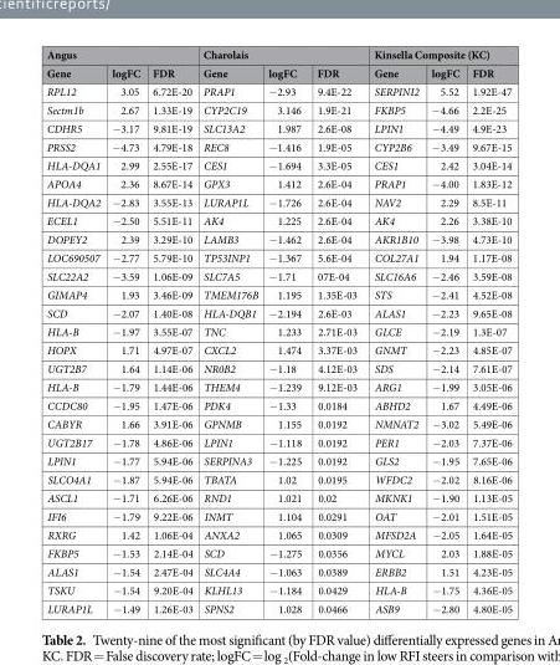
<table><thead><tr><td colspan="3">Angus</td><td colspan="3">Charolais</td><td colspan="3">Kinsella Composite (KC)</td></tr><tr><td>Gene</td><td>logFC</td><td>FDR</td><td>Gene</td><td>logFC</td><td>FDR</td><td>Gene</td><td>logFC</td><td>FDR</td></tr></thead><tbody><tr><td>RPL12</td><td>3.05</td><td>6.72E-20</td><td>PRAP1</td><td>−2.93</td><td>9.4E-22</td><td>SERPINI2</td><td>5.52</td><td>1.92E-47</td></tr><tr><td>Sectm1b</td><td>2.67</td><td>1.33E-19</td><td>CYP2C19</td><td>3.146</td><td>1.9E-21</td><td>FKBP5</td><td>−4.66</td><td>2.2E-25</td></tr><tr><td>CDHR5</td><td>−3.17</td><td>9.81E-19</td><td>SLC13A2</td><td>1.987</td><td>2.6E-08</td><td>LPIN1</td><td>−4.49</td><td>4.9E-23</td></tr><tr><td>PRSS2</td><td>−4.73</td><td>4.79E-18</td><td>REC8</td><td>−1.416</td><td>1.9E-05</td><td>CYP2B6</td><td>−3.49</td><td>9.67E-15</td></tr><tr><td>HLA-DQA1</td><td>2.99</td><td>2.55E-17</td><td>CES1</td><td>−1.694</td><td>3.3E-05</td><td>CES1</td><td>2.42</td><td>3.04E-14</td></tr><tr><td>APOA4</td><td>2.36</td><td>8.67E-14</td><td>GPX3</td><td>1.412</td><td>2.6E-04</td><td>PRAP1</td><td>−4.00</td><td>1.83E-12</td></tr><tr><td>HLA-DQA2</td><td>−2.83</td><td>3.55E-13</td><td>LURAP1L</td><td>−1.726</td><td>2.6E-04</td><td>NAV2</td><td>2.29</td><td>8.5E-11</td></tr><tr><td>ECEL1</td><td>−2.50</td><td>5.51E-11</td><td>AK4</td><td>1.225</td><td>2.6E-04</td><td>AK4</td><td>2.26</td><td>3.38E-10</td></tr><tr><td>DOPEY2</td><td>2.39</td><td>3.29E-10</td><td>LAMB3</td><td>−1.462</td><td>2.6E-04</td><td>AKR1B10</td><td>−3.98</td><td>4.73E-10</td></tr><tr><td>LOC690507</td><td>−2.77</td><td>5.79E-10</td><td>TP53INP1</td><td>−1.367</td><td>5.6E-04</td><td>COL27A1</td><td>1.94</td><td>1.17E-08</td></tr><tr><td>SLC22A2</td><td>−3.59</td><td>1.06E-09</td><td>SLC7A5</td><td>−1.71</td><td>07E-04</td><td>SLC16A6</td><td>−2.46</td><td>3.59E-08</td></tr><tr><td>GIMAP4</td><td>1.93</td><td>3.46E-09</td><td>TMEM176B</td><td>1.195</td><td>1.35E-03</td><td>STS</td><td>−2.41</td><td>4.52E-08</td></tr><tr><td>SCD</td><td>−2.07</td><td>1.40E-08</td><td>HLA-DQB1</td><td>−2.194</td><td>2.6E-03</td><td>ALAS1</td><td>−2.23</td><td>9.65E-08</td></tr><tr><td>HLA-B</td><td>−1.97</td><td>3.55E-07</td><td>TNC</td><td>1.233</td><td>2.71E-03</td><td>GLCE</td><td>−2.19</td><td>1.3E-07</td></tr><tr><td>HOPX</td><td>1.71</td><td>4.97E-07</td><td>CXCL2</td><td>1.474</td><td>3.37E-03</td><td>GNMT</td><td>−2.23</td><td>4.85E-07</td></tr><tr><td>UGT2B7</td><td>1.64</td><td>1.14E-06</td><td>NR0B2</td><td>−1.18</td><td>4.12E-03</td><td>SDS</td><td>−2.14</td><td>7.61E-07</td></tr><tr><td>HLA-B</td><td>−1.79</td><td>1.44E-06</td><td>THEM4</td><td>−1.239</td><td>9.12E-03</td><td>ARG1</td><td>−1.99</td><td>3.05E-06</td></tr><tr><td>CCDC80</td><td>−1.95</td><td>1.47E-06</td><td>PDK4</td><td>−1.33</td><td>0.0184</td><td>ABHD2</td><td>1.67</td><td>4.49E-06</td></tr><tr><td>CABYR</td><td>1.66</td><td>3.91E-06</td><td>GPNMB</td><td>1.155</td><td>0.0192</td><td>NMNAT2</td><td>−3.02</td><td>5.49E-06</td></tr><tr><td>UGT2B17</td><td>−1.78</td><td>4.86E-06</td><td>LPIN1</td><td>−1.118</td><td>0.0192</td><td>PER1</td><td>−2.03</td><td>7.37E-06</td></tr><tr><td>LPIN1</td><td>−1.77</td><td>5.94E-06</td><td>SERPINA3</td><td>−1.225</td><td>0.0192</td><td>GLS2</td><td>−1.95</td><td>7.65E-06</td></tr><tr><td>SLCO4A1</td><td>−1.87</td><td>5.94E-06</td><td>TBATA</td><td>1.02</td><td>0.0195</td><td>WFDC2</td><td>−2.02</td><td>8.16E-06</td></tr><tr><td>ASCL1</td><td>−1.71</td><td>6.26E-06</td><td>RND1</td><td>1.021</td><td>0.02</td><td>MKNK1</td><td>−1.90</td><td>1.13E-05</td></tr><tr><td>IFI6</td><td>−1.79</td><td>9.22E-06</td><td>INMT</td><td>1.104</td><td>0.0291</td><td>OAT</td><td>−2.01</td><td>1.51E-05</td></tr><tr><td>RXRG</td><td>1.42</td><td>1.06E-04</td><td>ANXA2</td><td>1.065</td><td>0.0309</td><td>MFSD2A</td><td>−2.05</td><td>1.64E-05</td></tr><tr><td>FKBP5</td><td>−1.53</td><td>2.14E-04</td><td>SCD</td><td>−1.275</td><td>0.0356</td><td>MYCL</td><td>2.03</td><td>1.88E-05</td></tr><tr><td>ALAS1</td><td>−1.54</td><td>2.47E-04</td><td>SLC4A4</td><td>−1.063</td><td>0.0389</td><td>ERBB2</td><td>1.51</td><td>4.23E-05</td></tr><tr><td>TSKU</td><td>−1.54</td><td>9.20E-04</td><td>KLHL13</td><td>−1.184</td><td>0.0429</td><td>HLA-B</td><td>−1.75</td><td>4.36E-05</td></tr><tr><td>LURAP1L</td><td>−1.49</td><td>1.26E-03</td><td>SPNS2</td><td>1.028</td><td>0.0466</td><td>ASB9</td><td>−2.80</td><td>4.80E-05</td></tr></tbody></table>